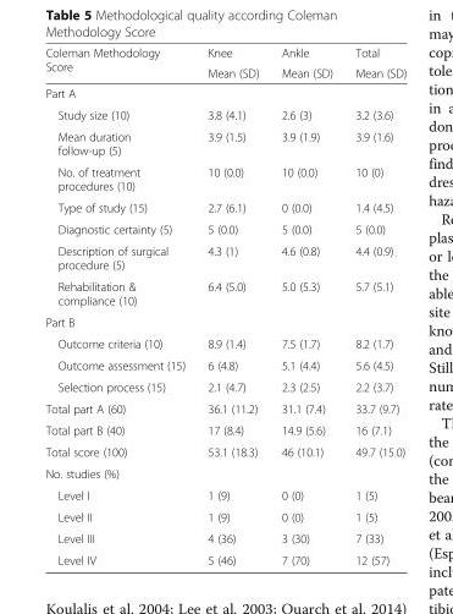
<table><thead><tr><td rowspan="2">Coleman Methodology Score</td><td rowspan="2">Knee Mean (SD)</td><td rowspan="2">Ankle Mean (SD)</td><td rowspan="2">Total Mean (SD)</td></tr><tr></tr></thead><tbody><tr><td colspan="4">Part A</td></tr><tr><td>Study size (10)</td><td>3.8 (4.1)</td><td>2.6 (3)</td><td>3.2 (3.6)</td></tr><tr><td>Mean duration follow-up (5)</td><td>3.9 (1.5)</td><td>3.9 (1.9)</td><td>3.9 (1.6)</td></tr><tr><td>No. of treatment procedures (10)</td><td>10 (0.0)</td><td>10 (0.0)</td><td>10 (0)</td></tr><tr><td>Type of study (15)</td><td>2.7 (6.1)</td><td>0 (0.0)</td><td>1.4 (4.5)</td></tr><tr><td>Diagnostic certainty (5)</td><td>5 (0.0)</td><td>5 (0.0)</td><td>5 (0.0)</td></tr><tr><td>Description of surgical procedure (5)</td><td>4.3 (1)</td><td>4.6 (0.8)</td><td>4.4 (0.9)</td></tr><tr><td>Rehabilitation &amp; compliance (10)</td><td>6.4 (5.0)</td><td>5.0 (5.3)</td><td>5.7 (5.1)</td></tr><tr><td colspan="4">Part B</td></tr><tr><td>Outcome criteria (10)</td><td>8.9 (1.4)</td><td>7.5 (1.7)</td><td>8.2 (1.7)</td></tr><tr><td>Outcome assessment (15)</td><td>6 (4.8)</td><td>5.1 (4.4)</td><td>5.6 (4.5)</td></tr><tr><td>Selection process (15)</td><td>2.1 (4.7)</td><td>2.3 (2.5)</td><td>2.2 (3.7)</td></tr><tr><td>Total part A (60)</td><td>36.1 (11.2)</td><td>31.1 (7.4)</td><td>33.7 (9.7)</td></tr><tr><td>Total part B (40)</td><td>17 (8.4)</td><td>14.9 (5.6)</td><td>16 (7.1)</td></tr><tr><td>Total score (100)</td><td>53.1 (18.3)</td><td>46 (10.1)</td><td>49.7 (15.0)</td></tr><tr><td colspan="4">No. studies (%)</td></tr><tr><td>Level I</td><td>1 (9)</td><td>0 (0)</td><td>1 (5)</td></tr><tr><td>Level II</td><td>1 (9)</td><td>0 (0)</td><td>1 (5)</td></tr><tr><td>Level III</td><td>4 (36)</td><td>3 (30)</td><td>7 (33)</td></tr><tr><td>Level IV</td><td>5 (46)</td><td>7 (70)</td><td>12 (57)</td></tr></tbody></table>